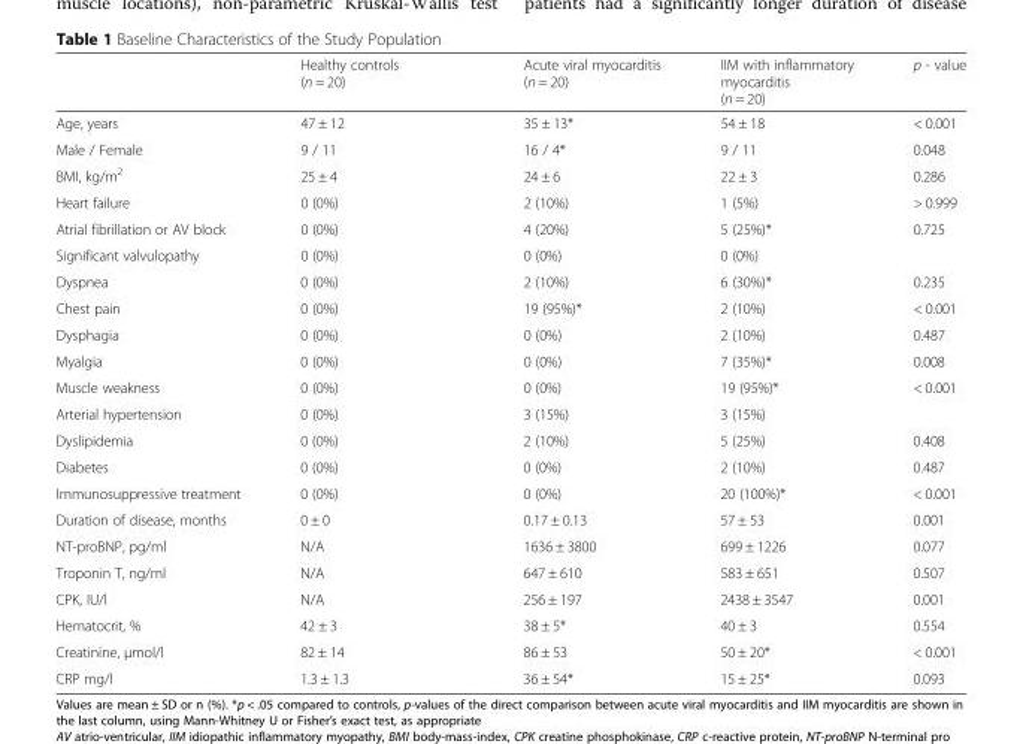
<table><thead><tr><td></td><td>Healthy controls (n = 20)</td><td>Acute viral myocarditis (n = 20)</td><td>IIM with inflammatory myocarditis (n = 20)</td><td>p - value</td></tr></thead><tbody><tr><td>Age, years</td><td>47 ± 12</td><td>35 ± 13*</td><td>54 ± 18</td><td>&lt; 0.001</td></tr><tr><td>Male / Female</td><td>9 / 11</td><td>16 / 4*</td><td>9 / 11</td><td>0.048</td></tr><tr><td>BMI, kg/m<sup>2</sup></td><td>25 ± 4</td><td>24 ± 6</td><td>22 ± 3</td><td>0.286</td></tr><tr><td>Heart failure</td><td>0 (0%)</td><td>2 (10%)</td><td>1 (5%)</td><td>&gt; 0.999</td></tr><tr><td>Atrial fibrillation or AV block</td><td>0 (0%)</td><td>4 (20%)</td><td>5 (25%)*</td><td>0.725</td></tr><tr><td>Significant valvulopathy</td><td>0 (0%)</td><td>0 (0%)</td><td>0 (0%)</td><td></td></tr><tr><td>Dyspnea</td><td>0 (0%)</td><td>2 (10%)</td><td>6 (30%)*</td><td>0.235</td></tr><tr><td>Chest pain</td><td>0 (0%)</td><td>19 (95%)*</td><td>2 (10%)</td><td>&lt; 0.001</td></tr><tr><td>Dysphagia</td><td>0 (0%)</td><td>0 (0%)</td><td>2 (10%)</td><td>0.487</td></tr><tr><td>Myalgia</td><td>0 (0%)</td><td>0 (0%)</td><td>7 (35%)*</td><td>0.008</td></tr><tr><td>Muscle weakness</td><td>0 (0%)</td><td>0 (0%)</td><td>19 (95%)*</td><td>&lt; 0.001</td></tr><tr><td>Arterial hypertension</td><td>0 (0%)</td><td>3 (15%)</td><td>3 (15%)</td><td></td></tr><tr><td>Dyslipidemia</td><td>0 (0%)</td><td>2 (10%)</td><td>5 (25%)</td><td>0.408</td></tr><tr><td>Diabetes</td><td>0 (0%)</td><td>0 (0%)</td><td>2 (10%)</td><td>0.487</td></tr><tr><td>Immunosuppressive treatment</td><td>0 (0%)</td><td>0 (0%)</td><td>20 (100%)*</td><td>&lt; 0.001</td></tr><tr><td>Duration of disease, months</td><td>0 ± 0</td><td>0.17 ± 0.13</td><td>57 ± 53</td><td>0.001</td></tr><tr><td>NT-proBNP, pg/ml</td><td>N/A</td><td>1636 ± 3800</td><td>699 ± 1226</td><td>0.077</td></tr><tr><td>Troponin T, ng/ml</td><td>N/A</td><td>647 ± 610</td><td>583 ± 651</td><td>0.507</td></tr><tr><td>CPK, IU/l</td><td>N/A</td><td>256 ± 197</td><td>2438 ± 3547</td><td>0.001</td></tr><tr><td>Hematocrit, %</td><td>42 ± 3</td><td>38 ± 5*</td><td>40 ± 3</td><td>0.554</td></tr><tr><td>Creatinine, μmol/l</td><td>82 ± 14</td><td>86 ± 53</td><td>50 ± 20*</td><td>&lt; 0.001</td></tr><tr><td>CRP mg/l</td><td>1.3 ± 1.3</td><td>36 ± 54*</td><td>15 ± 25*</td><td>0.093</td></tr></tbody></table>